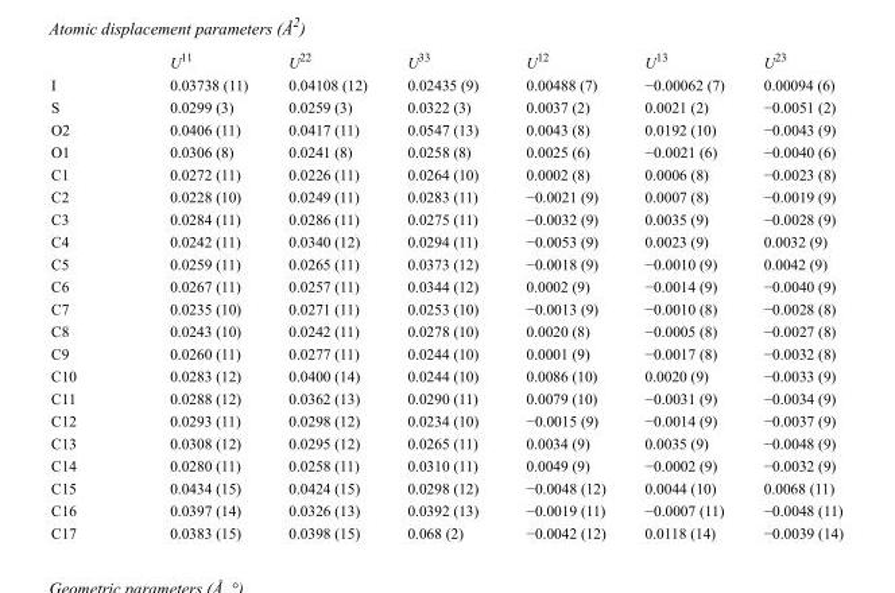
<table><thead><tr><td></td><td>U<sup>11</sup></td><td>U<sup>22</sup></td><td>U<sup>33</sup></td><td>U<sup>12</sup></td><td>U<sup>13</sup></td><td>U<sup>23</sup></td></tr></thead><tbody><tr><td>I</td><td>0.03738 (11)</td><td>0.04108 (12)</td><td>0.02435 (9)</td><td>0.00488 (7)</td><td>−0.00062 (7)</td><td>0.00094 (6)</td></tr><tr><td>S</td><td>0.0299 (3)</td><td>0.0259 (3)</td><td>0.0322 (3)</td><td>0.0037 (2)</td><td>0.0021 (2)</td><td>−0.0051 (2)</td></tr><tr><td>O2</td><td>0.0406 (11)</td><td>0.0417 (11)</td><td>0.0547 (13)</td><td>0.0043 (8)</td><td>0.0192 (10)</td><td>−0.0043 (9)</td></tr><tr><td>O1</td><td>0.0306 (8)</td><td>0.0241 (8)</td><td>0.0258 (8)</td><td>0.0025 (6)</td><td>−0.0021 (6)</td><td>−0.0040 (6)</td></tr><tr><td>C1</td><td>0.0272 (11)</td><td>0.0226 (11)</td><td>0.0264 (10)</td><td>0.0002 (8)</td><td>0.0006 (8)</td><td>−0.0023 (8)</td></tr><tr><td>C2</td><td>0.0228 (10)</td><td>0.0249 (11)</td><td>0.0283 (11)</td><td>−0.0021 (9)</td><td>0.0007 (8)</td><td>−0.0019 (9)</td></tr><tr><td>C3</td><td>0.0284 (11)</td><td>0.0286 (11)</td><td>0.0275 (11)</td><td>−0.0032 (9)</td><td>0.0035 (9)</td><td>−0.0028 (9)</td></tr><tr><td>C4</td><td>0.0242 (11)</td><td>0.0340 (12)</td><td>0.0294 (11)</td><td>−0.0053 (9)</td><td>0.0023 (9)</td><td>0.0032 (9)</td></tr><tr><td>C5</td><td>0.0259 (11)</td><td>0.0265 (11)</td><td>0.0373 (12)</td><td>−0.0018 (9)</td><td>−0.0010 (9)</td><td>0.0042 (9)</td></tr><tr><td>C6</td><td>0.0267 (11)</td><td>0.0257 (11)</td><td>0.0344 (12)</td><td>0.0002 (9)</td><td>−0.0014 (9)</td><td>−0.0040 (9)</td></tr><tr><td>C7</td><td>0.0235 (10)</td><td>0.0271 (11)</td><td>0.0253 (10)</td><td>−0.0013 (9)</td><td>−0.0010 (8)</td><td>−0.0028 (8)</td></tr><tr><td>C8</td><td>0.0243 (10)</td><td>0.0242 (11)</td><td>0.0278 (10)</td><td>0.0020 (8)</td><td>−0.0005 (8)</td><td>−0.0027 (8)</td></tr><tr><td>C9</td><td>0.0260 (11)</td><td>0.0277 (11)</td><td>0.0244 (10)</td><td>0.0001 (9)</td><td>−0.0017 (8)</td><td>−0.0032 (8)</td></tr><tr><td>C10</td><td>0.0283 (12)</td><td>0.0400 (14)</td><td>0.0244 (10)</td><td>0.0086 (10)</td><td>0.0020 (9)</td><td>−0.0033 (9)</td></tr><tr><td>C11</td><td>0.0288 (12)</td><td>0.0362 (13)</td><td>0.0290 (11)</td><td>0.0079 (10)</td><td>−0.0031 (9)</td><td>−0.0034 (9)</td></tr><tr><td>C12</td><td>0.0293 (11)</td><td>0.0298 (12)</td><td>0.0234 (10)</td><td>−0.0015 (9)</td><td>−0.0014 (9)</td><td>−0.0037 (9)</td></tr><tr><td>C13</td><td>0.0308 (12)</td><td>0.0295 (12)</td><td>0.0265 (11)</td><td>0.0034 (9)</td><td>0.0035 (9)</td><td>−0.0048 (9)</td></tr><tr><td>C14</td><td>0.0280 (11)</td><td>0.0258 (11)</td><td>0.0310 (11)</td><td>0.0049 (9)</td><td>−0.0002 (9)</td><td>−0.0032 (9)</td></tr><tr><td>C15</td><td>0.0434 (15)</td><td>0.0424 (15)</td><td>0.0298 (12)</td><td>−0.0048 (12)</td><td>0.0044 (10)</td><td>0.0068 (11)</td></tr><tr><td>C16</td><td>0.0397 (14)</td><td>0.0326 (13)</td><td>0.0392 (13)</td><td>−0.0019 (11)</td><td>−0.0007 (11)</td><td>−0.0048 (11)</td></tr><tr><td>C17</td><td>0.0383 (15)</td><td>0.0398 (15)</td><td>0.068 (2)</td><td>−0.0042 (12)</td><td>0.0118 (14)</td><td>−0.0039 (14)</td></tr></tbody></table>